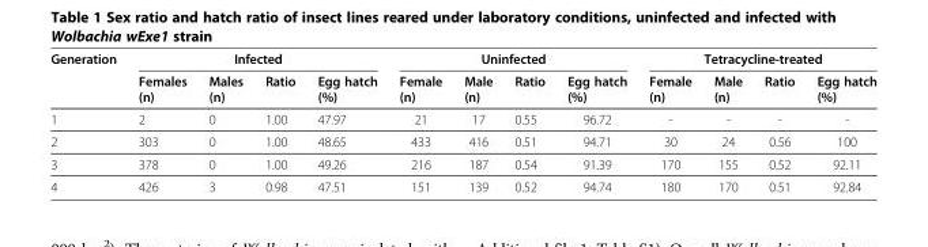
<table><thead><tr><td rowspan="2">Generation</td><td colspan="4">Infected</td><td colspan="4">Uninfected</td><td colspan="4">Tetracycline-treated</td></tr><tr><td>Females (n)</td><td>Males (n)</td><td>Ratio</td><td>Egg hatch (%)</td><td>Female (n)</td><td>Male (n)</td><td>Ratio</td><td>Egg hatch (%)</td><td>Female (n)</td><td>Male (n)</td><td>Ratio</td><td>Egg hatch (%)</td></tr></thead><tbody><tr><td>1</td><td>2</td><td>0</td><td>1.00</td><td>47.97</td><td>21</td><td>17</td><td>0.55</td><td>96.72</td><td>-</td><td>-</td><td>-</td><td>-</td></tr><tr><td>2</td><td>303</td><td>0</td><td>1.00</td><td>48.65</td><td>433</td><td>416</td><td>0.51</td><td>94.71</td><td>30</td><td>24</td><td>0.56</td><td>100</td></tr><tr><td>3</td><td>378</td><td>0</td><td>1.00</td><td>49.26</td><td>216</td><td>187</td><td>0.54</td><td>91.39</td><td>170</td><td>155</td><td>0.52</td><td>92.11</td></tr><tr><td>4</td><td>426</td><td>3</td><td>0.98</td><td>47.51</td><td>151</td><td>139</td><td>0.52</td><td>94.74</td><td>180</td><td>170</td><td>0.51</td><td>92.84</td></tr></tbody></table>